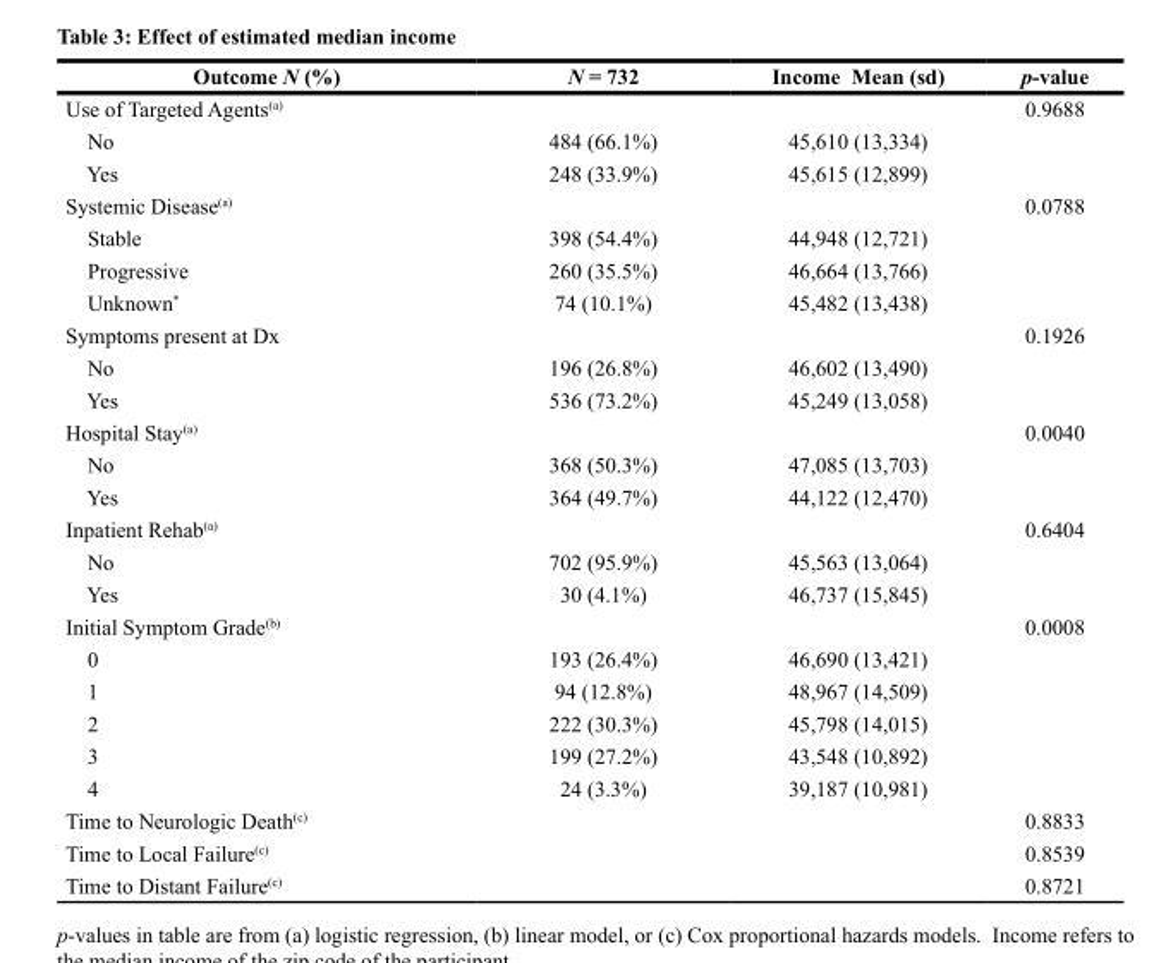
<table><thead><tr><td>Outcome N (%)</td><td>N = 732</td><td>Income Mean (sd)</td><td>p-value</td></tr></thead><tbody><tr><td>Use of Targeted Agents<sup>(a)</sup></td><td></td><td></td><td>0.9688</td></tr><tr><td>No</td><td>484 (66.1%)</td><td>45,610 (13,334)</td><td></td></tr><tr><td>Yes</td><td>248 (33.9%)</td><td>45,615 (12,899)</td><td></td></tr><tr><td>Systemic Disease<sup>(a)</sup></td><td></td><td></td><td>0.0788</td></tr><tr><td>Stable</td><td>398 (54.4%)</td><td>44,948 (12,721)</td><td></td></tr><tr><td>Progressive</td><td>260 (35.5%)</td><td>46,664 (13,766)</td><td></td></tr><tr><td>Unknown*</td><td>74 (10.1%)</td><td>45,482 (13,438)</td><td></td></tr><tr><td>Symptoms present at Dx</td><td></td><td></td><td>0.1926</td></tr><tr><td>No</td><td>196 (26.8%)</td><td>46,602 (13,490)</td><td></td></tr><tr><td>Yes</td><td>536 (73.2%)</td><td>45,249 (13,058)</td><td></td></tr><tr><td>Hospital Stay<sup>(a)</sup></td><td></td><td></td><td>0.0040</td></tr><tr><td>No</td><td>368 (50.3%)</td><td>47,085 (13,703)</td><td></td></tr><tr><td>Yes</td><td>364 (49.7%)</td><td>44,122 (12,470)</td><td></td></tr><tr><td>Inpatient Rehab<sup>(a)</sup></td><td></td><td></td><td>0.6404</td></tr><tr><td>No</td><td>702 (95.9%)</td><td>45,563 (13,064)</td><td></td></tr><tr><td>Yes</td><td>30 (4.1%)</td><td>46,737 (15,845)</td><td></td></tr><tr><td>Initial Symptom Grade<sup>(b)</sup></td><td></td><td></td><td>0.0008</td></tr><tr><td>0</td><td>193 (26.4%)</td><td>46,690 (13,421)</td><td></td></tr><tr><td>1</td><td>94 (12.8%)</td><td>48,967 (14,509)</td><td></td></tr><tr><td>2</td><td>222 (30.3%)</td><td>45,798 (14,015)</td><td></td></tr><tr><td>3</td><td>199 (27.2%)</td><td>43,548 (10,892)</td><td></td></tr><tr><td>4</td><td>24 (3.3%)</td><td>39,187 (10,981)</td><td></td></tr><tr><td>Time to Neurologic Death<sup>(c)</sup></td><td></td><td></td><td>0.8833</td></tr><tr><td>Time to Local Failure<sup>(c)</sup></td><td></td><td></td><td>0.8539</td></tr><tr><td>Time to Distant Failure<sup>(c)</sup></td><td></td><td></td><td>0.8721</td></tr></tbody></table>